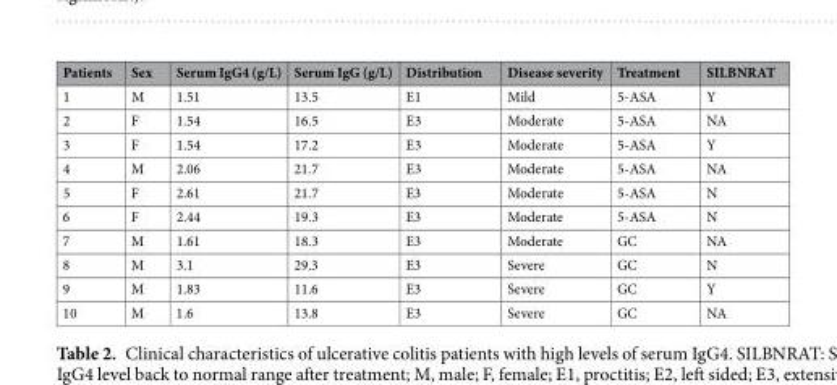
<table><thead><tr><td>Patients</td><td>Sex</td><td>Serum IgG4 (g/L)</td><td>Serum IgG (g/L)</td><td>Distribution</td><td>Disease severity</td><td>Treatment</td><td>SILBNRAT</td></tr></thead><tbody><tr><td>1</td><td>M</td><td>1.51</td><td>13.5</td><td>E1</td><td>Mild</td><td>5-ASA</td><td>Y</td></tr><tr><td>2</td><td>F</td><td>1.54</td><td>16.5</td><td>E3</td><td>Moderate</td><td>5-ASA</td><td>NA</td></tr><tr><td>3</td><td>F</td><td>1.54</td><td>17.2</td><td>E3</td><td>Moderate</td><td>5-ASA</td><td>Y</td></tr><tr><td>4</td><td>M</td><td>2.06</td><td>21.7</td><td>E3</td><td>Moderate</td><td>5-ASA</td><td>NA</td></tr><tr><td>5</td><td>F</td><td>2.61</td><td>21.7</td><td>E3</td><td>Moderate</td><td>5-ASA</td><td>N</td></tr><tr><td>6</td><td>F</td><td>2.44</td><td>19.3</td><td>E3</td><td>Moderate</td><td>5-ASA</td><td>N</td></tr><tr><td>7</td><td>M</td><td>1.61</td><td>18.3</td><td>E3</td><td>Moderate</td><td>GC</td><td>NA</td></tr><tr><td>8</td><td>M</td><td>3.1</td><td>29.3</td><td>E3</td><td>Severe</td><td>GC</td><td>N</td></tr><tr><td>9</td><td>M</td><td>1.83</td><td>11.6</td><td>E3</td><td>Severe</td><td>GC</td><td>Y</td></tr><tr><td>10</td><td>M</td><td>1.6</td><td>13.8</td><td>E3</td><td>Severe</td><td>GC</td><td>NA</td></tr></tbody></table>